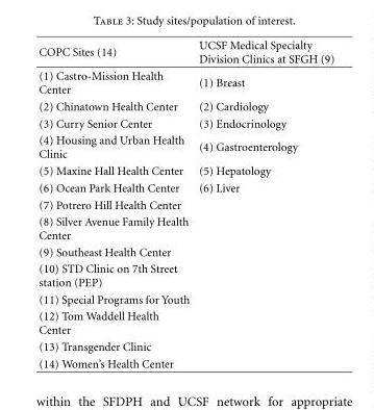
<table><thead><tr><td>COPC Sites (14)</td><td>UCSF Medical Specialty Division Clinics at SFGH (9)</td></tr></thead><tbody><tr><td>(1) Castro-Mission Health Center</td><td>(1) Breast</td></tr><tr><td>(2) Chinatown Health Center</td><td>(2) Cardiology</td></tr><tr><td>(3) Curry Senior Center</td><td>(3) Endocrinology</td></tr><tr><td>(4) Housing and Urban Health Clinic</td><td>(4) Gastroenterology</td></tr><tr><td>(5) Maxine Hall Health Center</td><td>(5) Hepatology</td></tr><tr><td>(6) Ocean Park Health Center</td><td>(6) Liver</td></tr><tr><td colspan="2">(7) Potrero Hill Health Center</td></tr><tr><td colspan="2">(8) Silver Avenue Family Health Center</td></tr><tr><td colspan="2">(9) Southeast Health Center</td></tr><tr><td colspan="2">(10) STD Clinic on 7th Street station (PEP)</td></tr><tr><td colspan="2">(11) Special Programs for Youth</td></tr><tr><td colspan="2">(12) Tom Waddell Health Center</td></tr><tr><td colspan="2">(13) Transgender Clinic</td></tr><tr><td>(14) Women’s Health Center</td><td></td></tr></tbody></table>